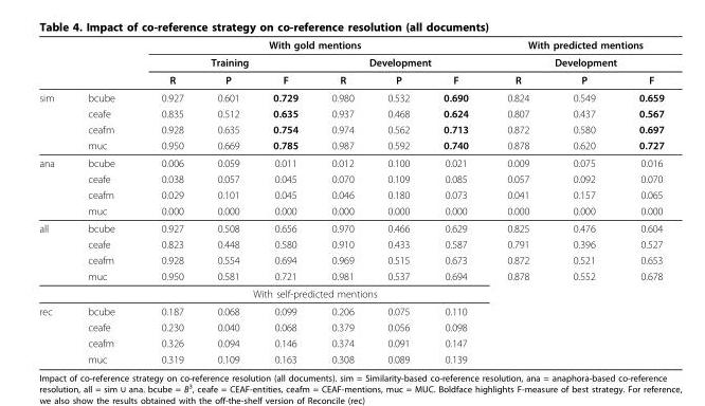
<table><thead><tr><td rowspan="3"></td><td rowspan="3"></td><td colspan="6">With gold mentions</td><td rowspan="2" colspan="3">With predicted mentions Development</td></tr><tr><td colspan="3">Training</td><td colspan="3">Development</td></tr><tr><td>R</td><td>P</td><td>F</td><td>R</td><td>P</td><td>F</td><td>R</td><td>P</td><td>F</td></tr></thead><tbody><tr><td rowspan="4">sim</td><td>bcube</td><td>0.927</td><td>0.601</td><td>0.729</td><td>0.980</td><td>0.532</td><td>0.690</td><td>0.824</td><td>0.549</td><td>0.659</td></tr><tr><td>ceafe</td><td>0.835</td><td>0.512</td><td>0.635</td><td>0.937</td><td>0.468</td><td>0.624</td><td>0.807</td><td>0.437</td><td>0.567</td></tr><tr><td>ceafm</td><td>0.928</td><td>0.635</td><td>0.754</td><td>0.974</td><td>0.562</td><td>0.713</td><td>0.872</td><td>0.580</td><td>0.697</td></tr><tr><td>muc</td><td>0.950</td><td>0.669</td><td>0.785</td><td>0.987</td><td>0.592</td><td>0.740</td><td>0.878</td><td>0.620</td><td>0.727</td></tr><tr><td rowspan="4">ana</td><td>bcube</td><td>0.006</td><td>0.059</td><td>0.011</td><td>0.012</td><td>0.100</td><td>0.021</td><td>0.009</td><td>0.075</td><td>0.016</td></tr><tr><td>ceafe</td><td>0.038</td><td>0.057</td><td>0.045</td><td>0.070</td><td>0.109</td><td>0.085</td><td>0.057</td><td>0.092</td><td>0.070</td></tr><tr><td>ceafm</td><td>0.029</td><td>0.101</td><td>0.045</td><td>0.046</td><td>0.180</td><td>0.073</td><td>0.041</td><td>0.157</td><td>0.065</td></tr><tr><td>muc</td><td>0.000</td><td>0.000</td><td>0.000</td><td>0.000</td><td>0.000</td><td>0.000</td><td>0.000</td><td>0.000</td><td>0.000</td></tr><tr><td rowspan="4">all</td><td>bcube</td><td>0.927</td><td>0.508</td><td>0.656</td><td>0.970</td><td>0.466</td><td>0.629</td><td>0.825</td><td>0.476</td><td>0.604</td></tr><tr><td>ceafe</td><td>0.823</td><td>0.448</td><td>0.580</td><td>0.910</td><td>0.433</td><td>0.587</td><td>0.791</td><td>0.396</td><td>0.527</td></tr><tr><td>ceafm</td><td>0.928</td><td>0.554</td><td>0.694</td><td>0.969</td><td>0.515</td><td>0.673</td><td>0.872</td><td>0.521</td><td>0.653</td></tr><tr><td>muc</td><td>0.950</td><td>0.581</td><td>0.721</td><td>0.981</td><td>0.537</td><td>0.694</td><td>0.878</td><td>0.552</td><td>0.678</td></tr><tr><td colspan="2"></td><td colspan="6">With self-predicted mentions</td><td colspan="3"></td></tr><tr><td rowspan="4">rec</td><td>bcube</td><td>0.187</td><td>0.068</td><td>0.099</td><td>0.206</td><td>0.075</td><td>0.110</td><td colspan="3"></td></tr><tr><td>ceafe</td><td>0.230</td><td>0.040</td><td>0.068</td><td>0.379</td><td>0.056</td><td>0.098</td><td colspan="3"></td></tr><tr><td>ceafm</td><td>0.326</td><td>0.094</td><td>0.146</td><td>0.374</td><td>0.091</td><td>0.147</td><td colspan="3"></td></tr><tr><td>muc</td><td>0.319</td><td>0.109</td><td>0.163</td><td>0.308</td><td>0.089</td><td>0.139</td><td colspan="3"></td></tr></tbody></table>